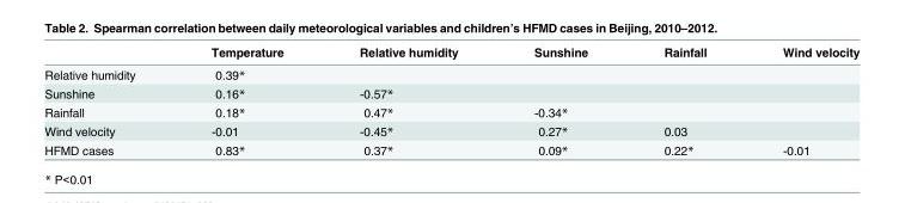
<table><thead><tr><td></td><td>Temperature</td><td>Relative humidity</td><td>Sunshine</td><td>Rainfall</td><td>Wind velocity</td></tr></thead><tbody><tr><td>Relative humidity</td><td>0.39*</td><td></td><td></td><td></td><td></td></tr><tr><td>Sunshine</td><td>0.16*</td><td>-0.57*</td><td></td><td></td><td></td></tr><tr><td>Rainfall</td><td>0.18*</td><td>0.47*</td><td>-0.34*</td><td></td><td></td></tr><tr><td>Wind velocity</td><td>-0.01</td><td>-0.45*</td><td>0.27*</td><td>0.03</td><td></td></tr><tr><td>HFMD cases</td><td>0.83*</td><td>0.37*</td><td>0.09*</td><td>0.22*</td><td>-0.01</td></tr></tbody></table>